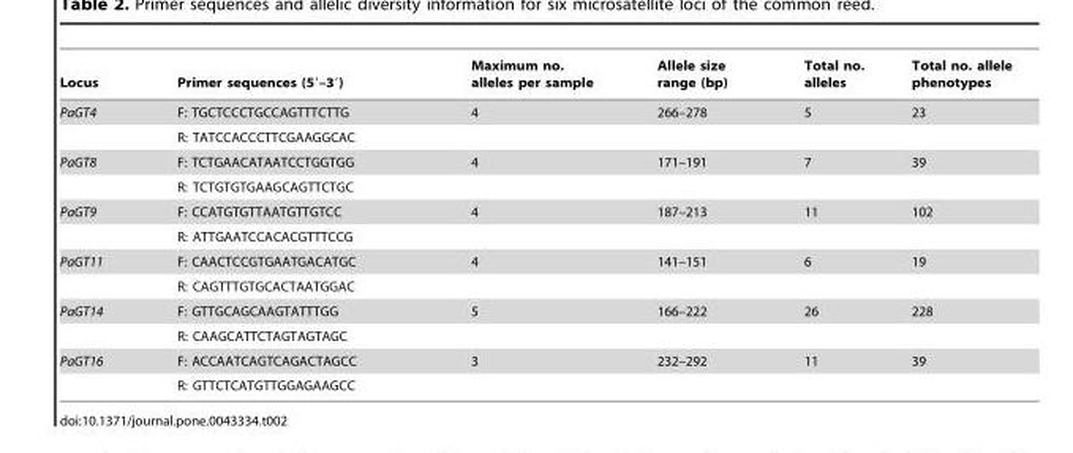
<table><thead><tr><td>Locus</td><td>Primer sequences (5′–3′)</td><td>Maximum no. alleles per sample</td><td>Allele size range (bp)</td><td>Total no. alleles</td><td>Total no. allele phenotypes</td></tr></thead><tbody><tr><td rowspan="2">PaGT4</td><td>F: TGCTCCCTGCCAGTTTCTTG</td><td>4</td><td>266–278</td><td>5</td><td>23</td></tr><tr><td>R: TATCCACCCTTCGAAGGCAC</td><td></td><td></td><td></td><td></td></tr><tr><td rowspan="2">PaGT8</td><td>F: TCTGAACATAATCCTGGTGG</td><td>4</td><td>171–191</td><td>7</td><td>39</td></tr><tr><td>R: TCTGTGTGAAGCAGTTCTGC</td><td></td><td></td><td></td><td></td></tr><tr><td rowspan="2">PaGT9</td><td>F: CCATGTGTTAATGTTGTCC</td><td>4</td><td>187–213</td><td>11</td><td>102</td></tr><tr><td>R: ATTGAATCCACACGTTTCCG</td><td></td><td></td><td></td><td></td></tr><tr><td rowspan="2">PaGT11</td><td>F: CAACTCCGTGAATGACATGC</td><td>4</td><td>141–151</td><td>6</td><td>19</td></tr><tr><td>R: CAGTTTGTGCACTAATGGAC</td><td></td><td></td><td></td><td></td></tr><tr><td rowspan="2">PaGT14</td><td>F: GTTGCAGCAAGTATTTGG</td><td>5</td><td>166–222</td><td>26</td><td>228</td></tr><tr><td>R: CAAGCATTCTAGTAGTAGC</td><td></td><td></td><td></td><td></td></tr><tr><td rowspan="2">PaGT16</td><td>F: ACCAATCAGTCAGACTAGCC</td><td>3</td><td>232–292</td><td>11</td><td>39</td></tr><tr><td>R: GTTCTCATGTTGGAGAAGCC</td><td></td><td></td><td></td><td></td></tr></tbody></table>